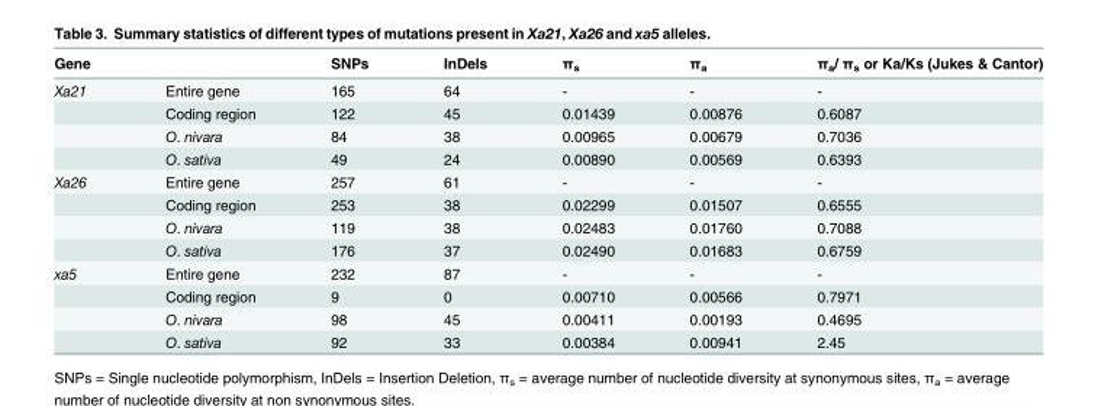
<table><thead><tr><td>Gene</td><td></td><td>SNPs</td><td>InDels</td><td>π<sub>s</sub></td><td>π<sub>a</sub></td><td>π<sub>a</sub>/ π<sub>s</sub> or Ka/Ks (Jukes &amp; Cantor)</td></tr></thead><tbody><tr><td rowspan="4">Xa21</td><td>Entire gene</td><td>165</td><td>64</td><td>-</td><td>-</td><td>-</td></tr><tr><td>Coding region</td><td>122</td><td>45</td><td>0.01439</td><td>0.00876</td><td>0.6087</td></tr><tr><td>O. nivara</td><td>84</td><td>38</td><td>0.00965</td><td>0.00679</td><td>0.7036</td></tr><tr><td>O. sativa</td><td>49</td><td>24</td><td>0.00890</td><td>0.00569</td><td>0.6393</td></tr><tr><td rowspan="4">Xa26</td><td>Entire gene</td><td>257</td><td>61</td><td>-</td><td>-</td><td>-</td></tr><tr><td>Coding region</td><td>253</td><td>38</td><td>0.02299</td><td>0.01507</td><td>0.6555</td></tr><tr><td>O. nivara</td><td>119</td><td>38</td><td>0.02483</td><td>0.01760</td><td>0.7088</td></tr><tr><td>O. sativa</td><td>176</td><td>37</td><td>0.02490</td><td>0.01683</td><td>0.6759</td></tr><tr><td rowspan="4">xa5</td><td>Entire gene</td><td>232</td><td>87</td><td>-</td><td>-</td><td>-</td></tr><tr><td>Coding region</td><td>9</td><td>0</td><td>0.00710</td><td>0.00566</td><td>0.7971</td></tr><tr><td>O. nivara</td><td>98</td><td>45</td><td>0.00411</td><td>0.00193</td><td>0.4695</td></tr><tr><td>O. sativa</td><td>92</td><td>33</td><td>0.00384</td><td>0.00941</td><td>2.45</td></tr></tbody></table>